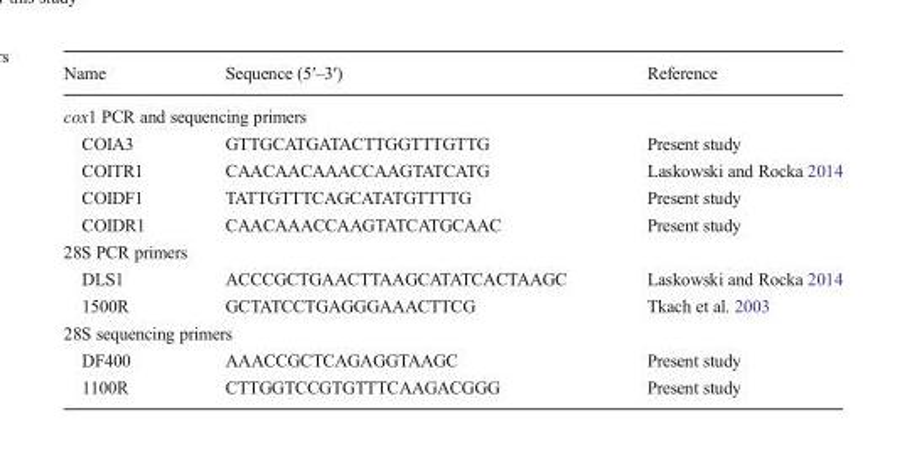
<table><thead><tr><td>Name</td><td>Sequence (5′–3′)</td><td>Reference</td></tr></thead><tbody><tr><td colspan="3">cox1 PCR and sequencing primers</td></tr><tr><td>COIA3</td><td>GTTGCATGATACTTGGTTTGTTG</td><td>Present study</td></tr><tr><td>COITR1</td><td>CAACAACAAACCAAGTATCATG</td><td>Laskowski and Rocka 2014</td></tr><tr><td>COIDF1</td><td>TATTGTTTCAGCATATGTTTTG</td><td>Present study</td></tr><tr><td>COIDR1</td><td>CAACAAACCAAGTATCATGCAAC</td><td>Present study</td></tr><tr><td colspan="3">28S PCR primers</td></tr><tr><td>DLS1</td><td>ACCCGCTGAACTTAAGCATATCACTAAGC</td><td>Laskowski and Rocka 2014</td></tr><tr><td>1500R</td><td>GCTATCCTGAGGGAAACTTCG</td><td>Tkach et al. 2003</td></tr><tr><td colspan="3">28S sequencing primers</td></tr><tr><td>DF400</td><td>AAACCGCTCAGAGGTAAGC</td><td>Present study</td></tr><tr><td>1100R</td><td>CTTGGTCCGTGTTTCAAGACGGG</td><td>Present study</td></tr></tbody></table>